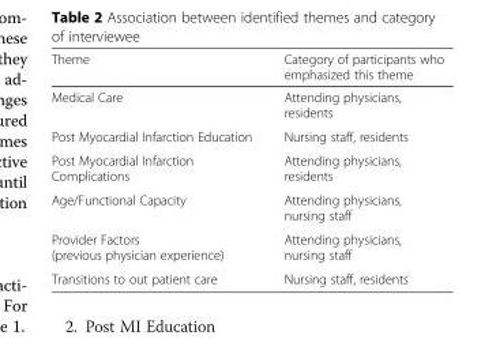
<table><thead><tr><td>Theme</td><td>Category of participants who emphasized this theme</td></tr></thead><tbody><tr><td>Medical Care</td><td>Attending physicians, residents</td></tr><tr><td>Post Myocardial Infarction Education</td><td>Nursing staff, residents</td></tr><tr><td>Post Myocardial Infarction Complications</td><td>Attending physicians, residents</td></tr><tr><td>Age/Functional Capacity</td><td>Attending physicians, nursing staff</td></tr><tr><td>Provider Factors (previous physician experience)</td><td>Attending physicians, nursing staff</td></tr><tr><td>Transitions to out patient care</td><td>Nursing staff, residents</td></tr></tbody></table>